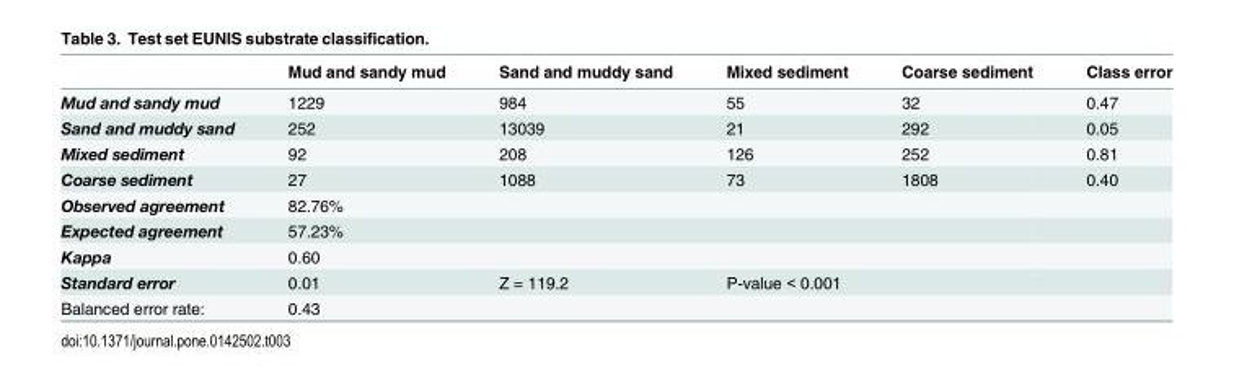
<table><thead><tr><td></td><td>Mud and sandy mud</td><td>Sand and muddy sand</td><td>Mixed sediment</td><td>Coarse sediment</td><td>Class error</td></tr></thead><tbody><tr><td>Mud and sandy mud</td><td>1229</td><td>984</td><td>55</td><td>32</td><td>0.47</td></tr><tr><td>Sand and muddy sand</td><td>252</td><td>13039</td><td>21</td><td>292</td><td>0.05</td></tr><tr><td>Mixed sediment</td><td>92</td><td>208</td><td>126</td><td>252</td><td>0.81</td></tr><tr><td>Coarse sediment</td><td>27</td><td>1088</td><td>73</td><td>1808</td><td>0.40</td></tr><tr><td>Observed agreement</td><td>82.76%</td><td></td><td></td><td></td><td></td></tr><tr><td>Expected agreement</td><td>57.23%</td><td></td><td></td><td></td><td></td></tr><tr><td>Kappa</td><td>0.60</td><td></td><td></td><td></td><td></td></tr><tr><td>Standard error</td><td>0.01</td><td>Z = 119.2</td><td>P-value &lt; 0.001</td><td></td><td></td></tr><tr><td>Balanced error rate:</td><td>0.43</td><td></td><td></td><td></td><td></td></tr></tbody></table>